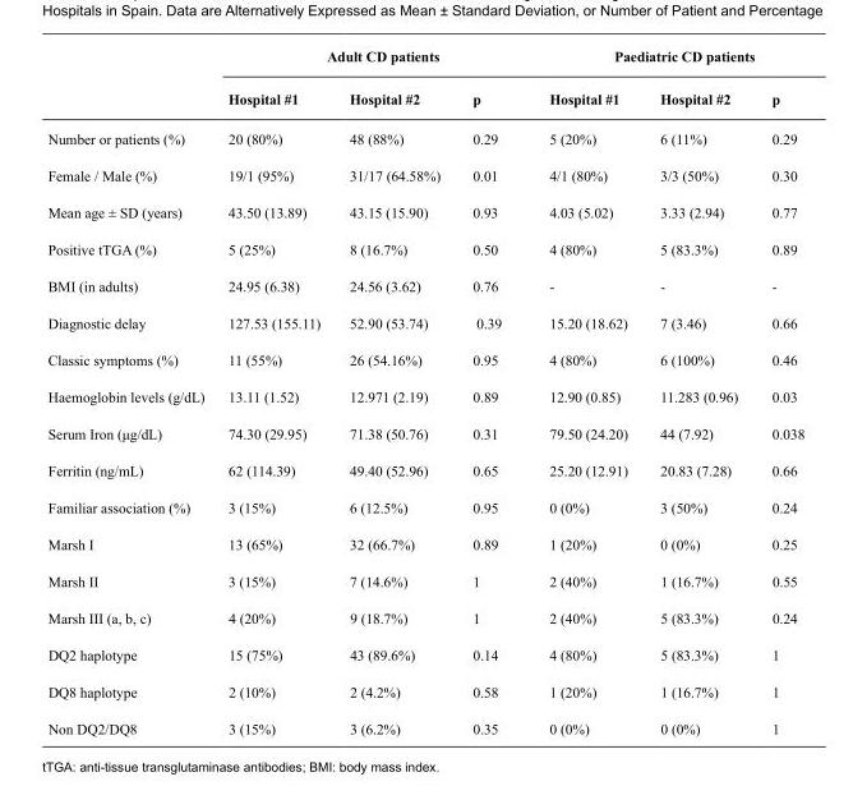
<table><thead><tr><td rowspan="2"></td><td colspan="3">Adult CD patients</td><td colspan="3">Paediatric CD patients</td></tr><tr><td>Hospital #1</td><td>Hospital #2</td><td>p</td><td>Hospital #1</td><td>Hospital #2</td><td>p</td></tr></thead><tbody><tr><td>Number or patients (%)</td><td>20 (80%)</td><td>48 (88%)</td><td>0.29</td><td>5 (20%)</td><td>6 (11%)</td><td>0.29</td></tr><tr><td>Female / Male (%)</td><td>19/1 (95%)</td><td>31/17 (64.58%)</td><td>0.01</td><td>4/1 (80%)</td><td>3/3 (50%)</td><td>0.30</td></tr><tr><td>Mean age ± SD (years)</td><td>43.50 (13.89)</td><td>43.15 (15.90)</td><td>0.93</td><td>4.03 (5.02)</td><td>3.33 (2.94)</td><td>0.77</td></tr><tr><td>Positive tTGA (%)</td><td>5 (25%)</td><td>8 (16.7%)</td><td>0.50</td><td>4 (80%)</td><td>5 (83.3%)</td><td>0.89</td></tr><tr><td>BMI (in adults)</td><td>24.95 (6.38)</td><td>24.56 (3.62)</td><td>0.76</td><td>-</td><td>-</td><td>-</td></tr><tr><td>Diagnostic delay</td><td>127.53 (155.11)</td><td>52.90 (53.74)</td><td>0.39</td><td>15.20 (18.62)</td><td>7 (3.46)</td><td>0.66</td></tr><tr><td>Classic symptoms (%)</td><td>11 (55%)</td><td>26 (54.16%)</td><td>0.95</td><td>4 (80%)</td><td>6 (100%)</td><td>0.46</td></tr><tr><td>Haemoglobin levels (g/dL)</td><td>13.11 (1.52)</td><td>12.971 (2.19)</td><td>0.89</td><td>12.90 (0.85)</td><td>11.283 (0.96)</td><td>0.03</td></tr><tr><td>Serum Iron (μg/dL)</td><td>74.30 (29.95)</td><td>71.38 (50.76)</td><td>0.31</td><td>79.50 (24.20)</td><td>44 (7.92)</td><td>0.038</td></tr><tr><td>Ferritin (ng/mL)</td><td>62 (114.39)</td><td>49.40 (52.96)</td><td>0.65</td><td>25.20 (12.91)</td><td>20.83 (7.28)</td><td>0.66</td></tr><tr><td>Familiar association (%)</td><td>3 (15%)</td><td>6 (12.5%)</td><td>0.95</td><td>0 (0%)</td><td>3 (50%)</td><td>0.24</td></tr><tr><td>Marsh I</td><td>13 (65%)</td><td>32 (66.7%)</td><td>0.89</td><td>1 (20%)</td><td>0 (0%)</td><td>0.25</td></tr><tr><td>Marsh II</td><td>3 (15%)</td><td>7 (14.6%)</td><td>1</td><td>2 (40%)</td><td>1 (16.7%)</td><td>0.55</td></tr><tr><td>Marsh III (a, b, c)</td><td>4 (20%)</td><td>9 (18.7%)</td><td>1</td><td>2 (40%)</td><td>5 (83.3%)</td><td>0.24</td></tr><tr><td>DQ2 haplotype</td><td>15 (75%)</td><td>43 (89.6%)</td><td>0.14</td><td>4 (80%)</td><td>5 (83.3%)</td><td>1</td></tr><tr><td>DQ8 haplotype</td><td>2 (10%)</td><td>2 (4.2%)</td><td>0.58</td><td>1 (20%)</td><td>1 (16.7%)</td><td>1</td></tr><tr><td>Non DQ2/DQ8</td><td>3 (15%)</td><td>3 (6.2%)</td><td>0.35</td><td>0 (0%)</td><td>0 (0%)</td><td>1</td></tr></tbody></table>